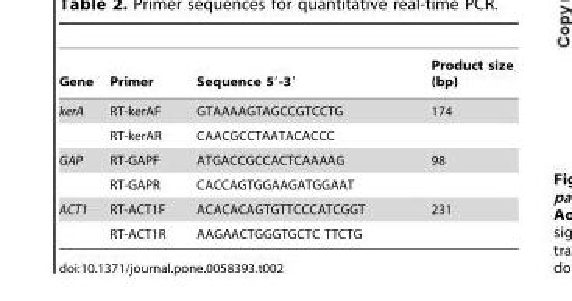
<table><thead><tr><td>Gene</td><td>Primer</td><td>Sequence 5′-3′</td><td>Product size (bp)</td></tr></thead><tbody><tr><td rowspan="2">kerA</td><td>RT-kerAF</td><td>GTAAAAGTAGCCGTCCTG</td><td>174</td></tr><tr><td>RT-kerAR</td><td>CAACGCCTAATACACCC</td><td></td></tr><tr><td rowspan="2">GAP</td><td>RT-GAPF</td><td>ATGACCGCCACTCAAAAG</td><td>98</td></tr><tr><td>RT-GAPR</td><td>CACCAGTGGAAGATGGAAT</td><td></td></tr><tr><td rowspan="2">ACT1</td><td>RT-ACT1F</td><td>ACACACAGTGTTCCCATCGGT</td><td>231</td></tr><tr><td>RT-ACT1R</td><td>AAGAACTGGGTGCTC TTCTG</td><td></td></tr></tbody></table>